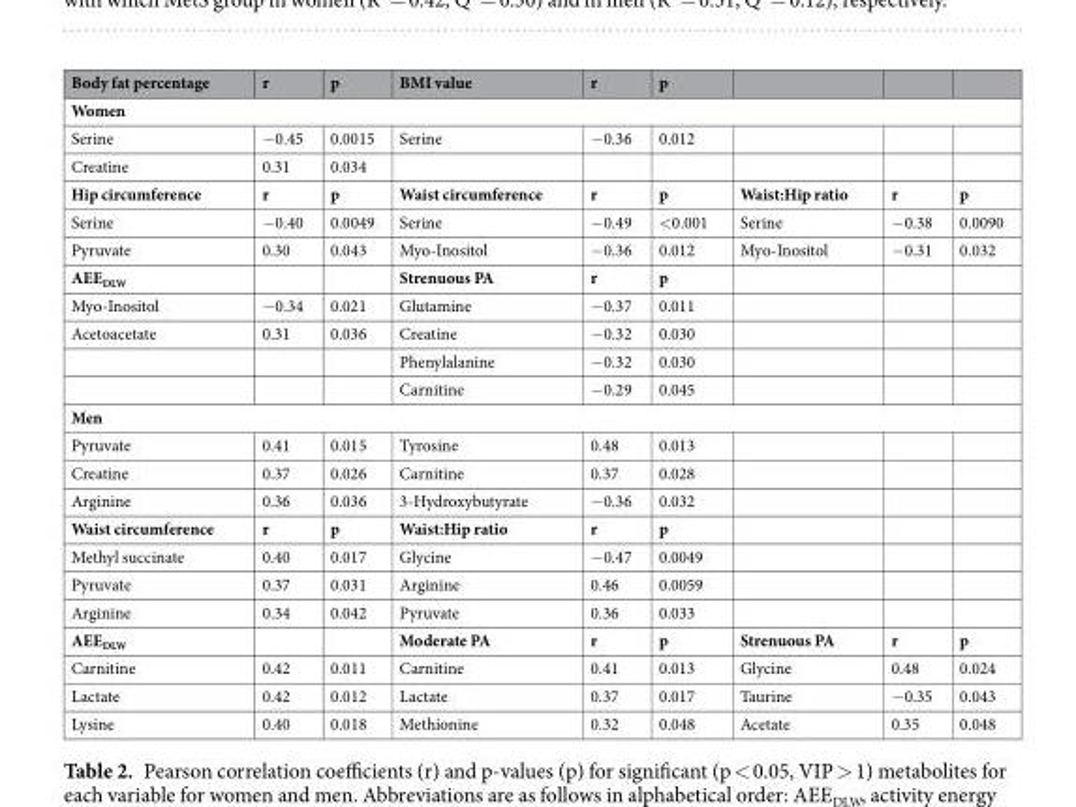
<table><thead><tr><td>Body fat percentage</td><td>r</td><td>p</td><td>BMI value</td><td>r</td><td>p</td><td></td><td></td><td></td></tr></thead><tbody><tr><td colspan="9">Women</td></tr><tr><td>Serine</td><td>−0.45</td><td>0.0015</td><td>Serine</td><td>−0.36</td><td>0.012</td><td></td><td></td><td></td></tr><tr><td>Creatine</td><td>0.31</td><td>0.034</td><td></td><td></td><td></td><td></td><td></td><td></td></tr><tr><td>Hip circumference</td><td>r</td><td>p</td><td>Waist circumference</td><td>r</td><td>p</td><td>Waist:Hip ratio</td><td>r</td><td>p</td></tr><tr><td>Serine</td><td>−0.40</td><td>0.0049</td><td>Serine</td><td>−0.49</td><td>&lt;0.001</td><td>Serine</td><td>−0.38</td><td>0.0090</td></tr><tr><td>Pyruvate</td><td>0.30</td><td>0.043</td><td>Myo-Inositol</td><td>−0.36</td><td>0.012</td><td>Myo-Inositol</td><td>−0.31</td><td>0.032</td></tr><tr><td>AEE<sub>DLW</sub></td><td></td><td></td><td>Strenuous PA</td><td>r</td><td>p</td><td></td><td></td><td></td></tr><tr><td>Myo-Inositol</td><td>−0.34</td><td>0.021</td><td>Glutamine</td><td>−0.37</td><td>0.011</td><td></td><td></td><td></td></tr><tr><td rowspan="3">Acetoacetate</td><td>0.31</td><td>0.036</td><td>Creatine</td><td>−0.32</td><td>0.030</td><td></td><td></td><td></td></tr><tr><td></td><td></td><td>Phenylalanine</td><td>−0.32</td><td>0.030</td><td></td><td></td><td></td></tr><tr><td></td><td></td><td>Carnitine</td><td>−0.29</td><td>0.045</td><td></td><td></td><td></td></tr><tr><td colspan="9">Men</td></tr><tr><td>Pyruvate</td><td>0.41</td><td>0.015</td><td>Tyrosine</td><td>0.48</td><td>0.013</td><td></td><td></td><td></td></tr><tr><td>Creatine</td><td>0.37</td><td>0.026</td><td>Carnitine</td><td>0.37</td><td>0.028</td><td></td><td></td><td></td></tr><tr><td>Arginine</td><td>0.36</td><td>0.036</td><td>3-Hydroxybutyrate</td><td>−0.36</td><td>0.032</td><td></td><td></td><td></td></tr><tr><td>Waist circumference</td><td>r</td><td>p</td><td>Waist:Hip ratio</td><td>r</td><td>p</td><td></td><td></td><td></td></tr><tr><td>Methyl succinate</td><td>0.40</td><td>0.017</td><td>Glycine</td><td>−0.47</td><td>0.0049</td><td></td><td></td><td></td></tr><tr><td>Pyruvate</td><td>0.37</td><td>0.031</td><td>Arginine</td><td>0.46</td><td>0.0059</td><td></td><td></td><td></td></tr><tr><td>Arginine</td><td>0.34</td><td>0.042</td><td>Pyruvate</td><td>0.36</td><td>0.033</td><td></td><td></td><td></td></tr><tr><td>AEE<sub>DLW</sub></td><td></td><td></td><td>Moderate PA</td><td>r</td><td>p</td><td>Strenuous PA</td><td>r</td><td>p</td></tr><tr><td>Carnitine</td><td>0.42</td><td>0.011</td><td>Carnitine</td><td>0.41</td><td>0.013</td><td>Glycine</td><td>0.48</td><td>0.024</td></tr><tr><td>Lactate</td><td>0.42</td><td>0.012</td><td>Lactate</td><td>0.37</td><td>0.017</td><td>Taurine</td><td>−0.35</td><td>0.043</td></tr><tr><td>Lysine</td><td>0.40</td><td>0.018</td><td>Methionine</td><td>0.32</td><td>0.048</td><td>Acetate</td><td>0.35</td><td>0.048</td></tr></tbody></table>